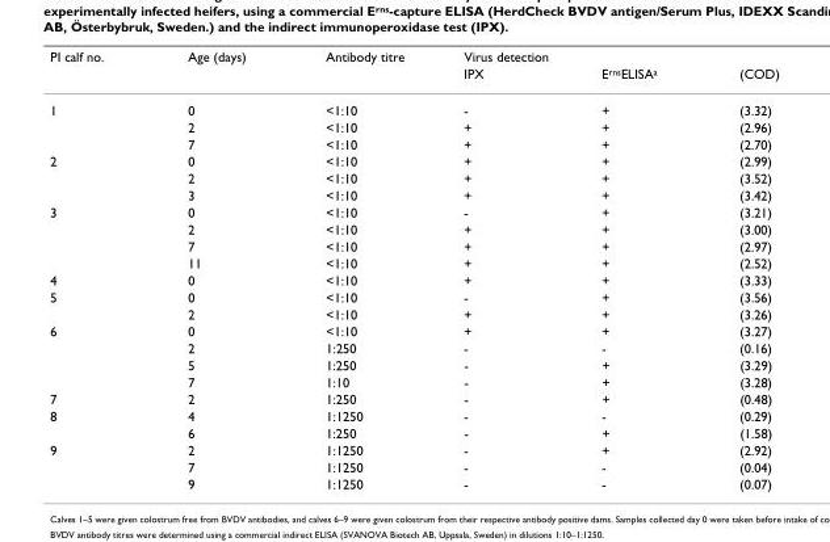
<table><thead><tr><td rowspan="2">PI calf no.</td><td rowspan="2">Age (days)</td><td rowspan="2">Antibody titre</td><td rowspan="2">Virus detection IPX</td><td rowspan="2">E<sup>rns</sup>ELISA<sup>a</sup></td><td rowspan="2">(COD)</td></tr><tr></tr></thead><tbody><tr><td rowspan="3">1</td><td>0</td><td>&lt;1:10</td><td>-</td><td>+</td><td>(3.32)</td></tr><tr><td>2</td><td>&lt;1:10</td><td>+</td><td>+</td><td>(2.96)</td></tr><tr><td>7</td><td>&lt;1:10</td><td>+</td><td>+</td><td>(2.70)</td></tr><tr><td rowspan="3">2</td><td>0</td><td>&lt;1:10</td><td>+</td><td>+</td><td>(2.99)</td></tr><tr><td>2</td><td>&lt;1:10</td><td>+</td><td>+</td><td>(3.52)</td></tr><tr><td>3</td><td>&lt;1:10</td><td>+</td><td>+</td><td>(3.42)</td></tr><tr><td rowspan="4">3</td><td>0</td><td>&lt;1:10</td><td>-</td><td>+</td><td>(3.21)</td></tr><tr><td>2</td><td>&lt;1:10</td><td>+</td><td>+</td><td>(3.00)</td></tr><tr><td>7</td><td>&lt;1:10</td><td>+</td><td>+</td><td>(2.97)</td></tr><tr><td>11</td><td>&lt;1:10</td><td>+</td><td>+</td><td>(2.52)</td></tr><tr><td>4</td><td>0</td><td>&lt;1:10</td><td>+</td><td>+</td><td>(3.33)</td></tr><tr><td rowspan="2">5</td><td>0</td><td>&lt;1:10</td><td>-</td><td>+</td><td>(3.56)</td></tr><tr><td>2</td><td>&lt;1:10</td><td>+</td><td>+</td><td>(3.26)</td></tr><tr><td rowspan="4">6</td><td>0</td><td>&lt;1:10</td><td>+</td><td>+</td><td>(3.27)</td></tr><tr><td>2</td><td>1:250</td><td>-</td><td>-</td><td>(0.16)</td></tr><tr><td>5</td><td>1:250</td><td>-</td><td>+</td><td>(3.29)</td></tr><tr><td>7</td><td>1:10</td><td>-</td><td>+</td><td>(3.28)</td></tr><tr><td>7</td><td>2</td><td>1:250</td><td>-</td><td>+</td><td>(0.48)</td></tr><tr><td rowspan="2">8</td><td>4</td><td>1:1250</td><td>-</td><td>-</td><td>(0.29)</td></tr><tr><td>6</td><td>1:250</td><td>-</td><td>+</td><td>(1.58)</td></tr><tr><td rowspan="3">9</td><td>2</td><td>1:1250</td><td>-</td><td>+</td><td>(2.92)</td></tr><tr><td>7</td><td>1:1250</td><td>-</td><td>-</td><td>(0.04)</td></tr><tr><td>9</td><td>1:1250</td><td>-</td><td>-</td><td>(0.07)</td></tr></tbody></table>